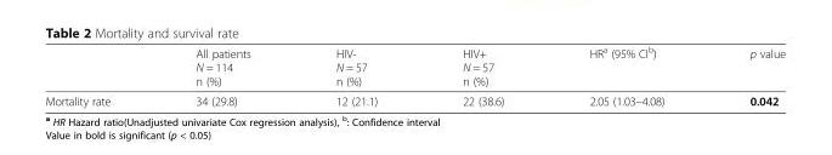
<table><thead><tr><td></td><td>All patients N = 114 n (%)</td><td>HIV- N = 57 n (%)</td><td>HIV+ N = 57 n (%)</td><td>HR<sup>a</sup> (95% CI<sup>b</sup>)</td><td>p value</td></tr></thead><tbody><tr><td>Mortality rate</td><td>34 (29.8)</td><td>12 (21.1)</td><td>22 (38.6)</td><td>2.05 (1.03–4.08)</td><td>0.042</td></tr></tbody></table>